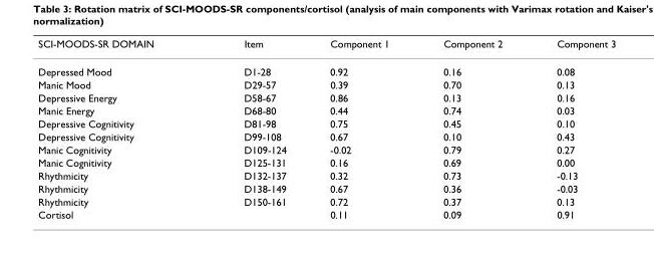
<table><thead><tr><td>SCI-MOODS-SR DOMAIN</td><td>Item</td><td>Component 1</td><td>Component 2</td><td>Component 3</td></tr></thead><tbody><tr><td>Depressed Mood</td><td>D1-28</td><td>0.92</td><td>0.16</td><td>0.08</td></tr><tr><td>Manic Mood</td><td>D29-57</td><td>0.39</td><td>0.70</td><td>0.13</td></tr><tr><td>Depressive Energy</td><td>D58-67</td><td>0.86</td><td>0.13</td><td>0.16</td></tr><tr><td>Manic Energy</td><td>D68-80</td><td>0.44</td><td>0.74</td><td>0.03</td></tr><tr><td>Depressive Cognitivity</td><td>D81-98</td><td>0.75</td><td>0.45</td><td>0.10</td></tr><tr><td>Depressive Cognitivity</td><td>D99-108</td><td>0.67</td><td>0.10</td><td>0.43</td></tr><tr><td>Manic Cognitivity</td><td>D109-124</td><td>-0.02</td><td>0.79</td><td>0.27</td></tr><tr><td>Manic Cognitivity</td><td>D125-131</td><td>0.16</td><td>0.69</td><td>0.00</td></tr><tr><td>Rhythmicity</td><td>D132-137</td><td>0.32</td><td>0.73</td><td>-0.13</td></tr><tr><td>Rhythmicity</td><td>D138-149</td><td>0.67</td><td>0.36</td><td>-0.03</td></tr><tr><td>Rhythmicity</td><td>D150-161</td><td>0.72</td><td>0.37</td><td>0.13</td></tr><tr><td>Cortisol</td><td></td><td>0.11</td><td>0.09</td><td>0.91</td></tr></tbody></table>